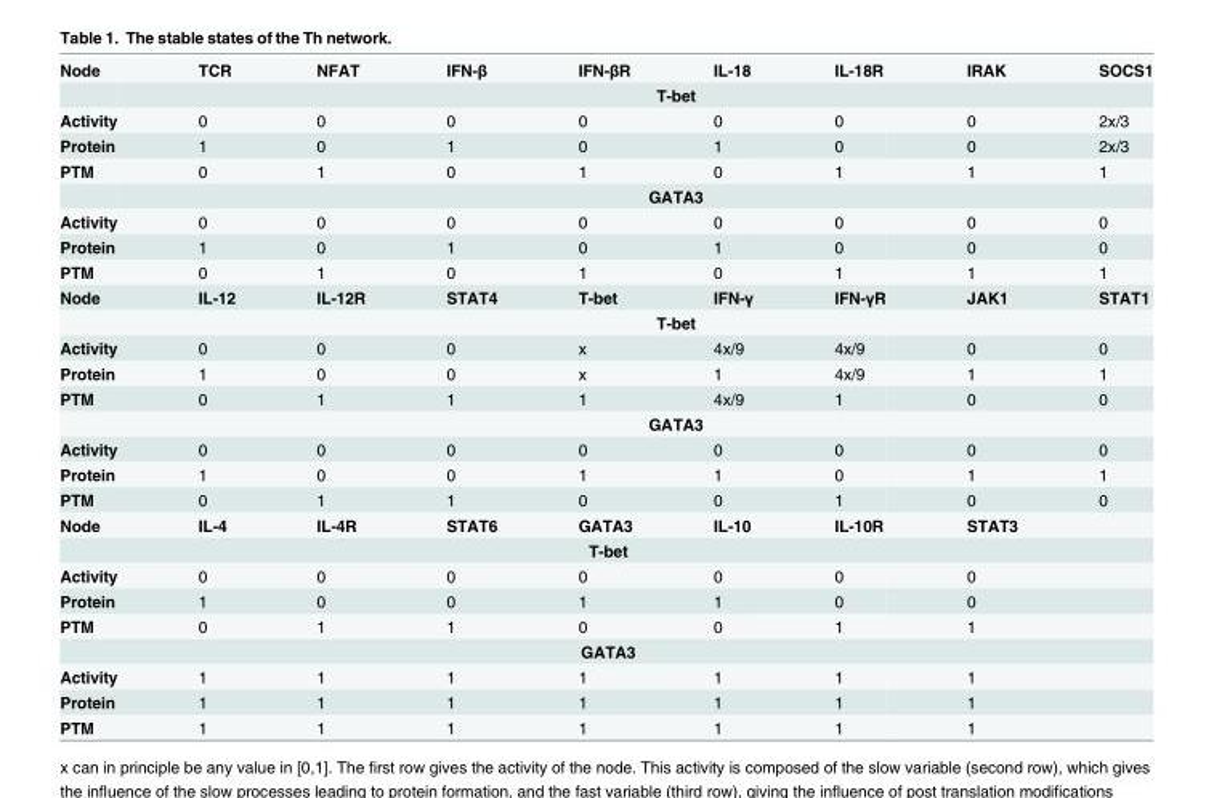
<table><tbody><tr><td rowspan="2">Node</td><td>TCR</td><td>NFAT</td><td>IFN-β</td><td>IFN-βR</td><td>IL-18</td><td>IL-18R</td><td>IRAK</td><td>SOCS1</td></tr><tr><td colspan="8">T-bet</td></tr><tr><td>Activity</td><td>0</td><td>0</td><td>0</td><td>0</td><td>0</td><td>0</td><td>0</td><td>2x/3</td></tr><tr><td>Protein</td><td>1</td><td>0</td><td>1</td><td>0</td><td>1</td><td>0</td><td>0</td><td>2x/3</td></tr><tr><td rowspan="2">PTM</td><td>0</td><td>1</td><td>0</td><td>1</td><td>0</td><td>1</td><td>1</td><td>1</td></tr><tr><td colspan="8">GATA3</td></tr><tr><td>Activity</td><td>0</td><td>0</td><td>0</td><td>0</td><td>0</td><td>0</td><td>0</td><td>0</td></tr><tr><td>Protein</td><td>1</td><td>0</td><td>1</td><td>0</td><td>1</td><td>0</td><td>0</td><td>0</td></tr><tr><td>PTM</td><td>0</td><td>1</td><td>0</td><td>1</td><td>0</td><td>1</td><td>1</td><td>1</td></tr><tr><td rowspan="2">Node</td><td>IL-12</td><td>IL-12R</td><td>STAT4</td><td>T-bet</td><td>IFN-γ</td><td>IFN-γR</td><td>JAK1</td><td>STAT1</td></tr><tr><td colspan="8">T-bet</td></tr><tr><td>Activity</td><td>0</td><td>0</td><td>0</td><td>x</td><td>4x/9</td><td>4x/9</td><td>0</td><td>0</td></tr><tr><td>Protein</td><td>1</td><td>0</td><td>0</td><td>x</td><td>1</td><td>4x/9</td><td>1</td><td>1</td></tr><tr><td rowspan="2">PTM</td><td>0</td><td>1</td><td>1</td><td>1</td><td>4x/9</td><td>1</td><td>0</td><td>0</td></tr><tr><td colspan="8">GATA3</td></tr><tr><td>Activity</td><td>0</td><td>0</td><td>0</td><td>0</td><td>0</td><td>0</td><td>0</td><td>0</td></tr><tr><td>Protein</td><td>1</td><td>0</td><td>0</td><td>1</td><td>1</td><td>0</td><td>1</td><td>1</td></tr><tr><td>PTM</td><td>0</td><td>1</td><td>1</td><td>0</td><td>0</td><td>1</td><td>0</td><td>0</td></tr><tr><td rowspan="2">Node</td><td>IL-4</td><td>IL-4R</td><td>STAT6</td><td>GATA3</td><td>IL-10</td><td>IL-10R</td><td>STAT3</td><td></td></tr><tr><td colspan="7">T-bet</td><td></td></tr><tr><td>Activity</td><td>0</td><td>0</td><td>0</td><td>0</td><td>0</td><td>0</td><td>0</td><td></td></tr><tr><td>Protein</td><td>1</td><td>0</td><td>0</td><td>1</td><td>1</td><td>0</td><td>0</td><td></td></tr><tr><td rowspan="2">PTM</td><td>0</td><td>1</td><td>1</td><td>0</td><td>0</td><td>1</td><td>1</td><td></td></tr><tr><td colspan="7">GATA3</td><td></td></tr><tr><td>Activity</td><td>1</td><td>1</td><td>1</td><td>1</td><td>1</td><td>1</td><td>1</td><td></td></tr><tr><td>Protein</td><td>1</td><td>1</td><td>1</td><td>1</td><td>1</td><td>1</td><td>1</td><td></td></tr><tr><td>PTM</td><td>1</td><td>1</td><td>1</td><td>1</td><td>1</td><td>1</td><td>1</td><td></td></tr></tbody></table>